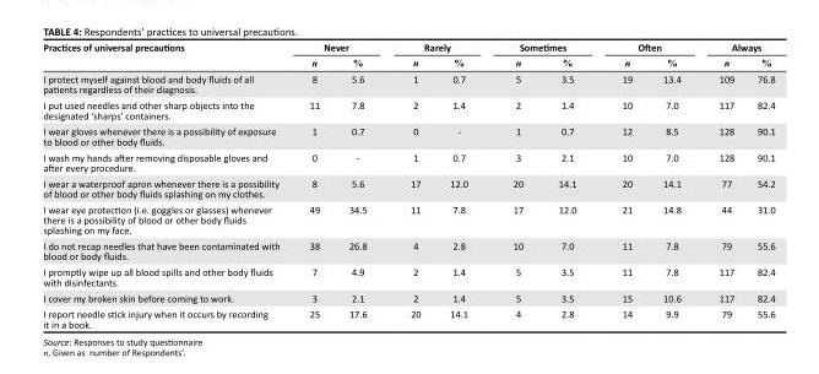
<table><thead><tr><td rowspan="2">Practices of universal precautions</td><td colspan="2">Never</td><td colspan="2">Rarely</td><td colspan="2">Sometimes</td><td colspan="2">Often</td><td colspan="2">Always</td></tr><tr><td>n</td><td>%</td><td>n</td><td>%</td><td>n</td><td>%</td><td>n</td><td>%</td><td>n</td><td>%</td></tr></thead><tbody><tr><td>I protect myself against blood and body fluids of all patients regardless of their diagnosis.</td><td>8</td><td>5.6</td><td>1</td><td>0.7</td><td>5</td><td>3.5</td><td>19</td><td>13.4</td><td>109</td><td>76.8</td></tr><tr><td>I put used needles and other sharp objects into the designated ‘sharps’ containers.</td><td>11</td><td>7.8</td><td>2</td><td>1.4</td><td>2</td><td>1.4</td><td>10</td><td>7.0</td><td>117</td><td>82.4</td></tr><tr><td>I wear gloves whenever there is a possibility of exposure to blood or other body fluids.</td><td>1</td><td>0.7</td><td>0</td><td>-</td><td>1</td><td>0.7</td><td>12</td><td>8.5</td><td>128</td><td>90.1</td></tr><tr><td>I wash my hands after removing disposable gloves and after every procedure.</td><td>0</td><td>-</td><td>1</td><td>0.7</td><td>3</td><td>2.1</td><td>10</td><td>7.0</td><td>128</td><td>90.1</td></tr><tr><td>I wear a waterproof apron whenever there is a possibility of blood or other body fluids splashing on my clothes.</td><td>8</td><td>5.6</td><td>17</td><td>12.0</td><td>20</td><td>14.1</td><td>20</td><td>14.1</td><td>77</td><td>54.2</td></tr><tr><td>I wear eye protection (i.e. goggles or glasses) whenever there is a possibility of blood or other body fluids splashing on my face.</td><td>49</td><td>34.5</td><td>11</td><td>7.8</td><td>17</td><td>12.0</td><td>21</td><td>14.8</td><td>44</td><td>31.0</td></tr><tr><td>I do not recap needles that have been contaminated with blood or body fluids.</td><td>38</td><td>26.8</td><td>4</td><td>2.8</td><td>10</td><td>7.0</td><td>11</td><td>7.8</td><td>79</td><td>55.6</td></tr><tr><td>I promptly wipe up all blood spills and other body fluids with disinfectants.</td><td>7</td><td>4.9</td><td>2</td><td>1.4</td><td>5</td><td>3.5</td><td>11</td><td>7.8</td><td>117</td><td>82.4</td></tr><tr><td>I cover my broken skin before coming to work.</td><td>3</td><td>2.1</td><td>2</td><td>1.4</td><td>5</td><td>3.5</td><td>15</td><td>10.6</td><td>117</td><td>82.4</td></tr><tr><td>I report needle stick injury when it occurs by recording it in a book.</td><td>25</td><td>17.6</td><td>20</td><td>14.1</td><td>4</td><td>2.8</td><td>14</td><td>9.9</td><td>79</td><td>55.6</td></tr></tbody></table>